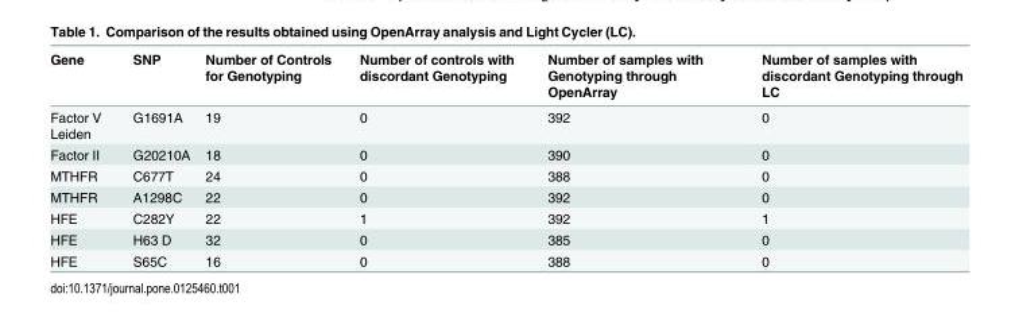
<table><thead><tr><td>Gene</td><td>SNP</td><td>Number of Controls for Genotyping</td><td>Number of controls with discordant Genotyping</td><td>Number of samples with Genotyping through OpenArray</td><td>Number of samples with discordant Genotyping through LC</td></tr></thead><tbody><tr><td>Factor V Leiden</td><td>G1691A</td><td>19</td><td>0</td><td>392</td><td>0</td></tr><tr><td>Factor II</td><td>G20210A</td><td>18</td><td>0</td><td>390</td><td>0</td></tr><tr><td>MTHFR</td><td>C677T</td><td>24</td><td>0</td><td>388</td><td>0</td></tr><tr><td>MTHFR</td><td>A1298C</td><td>22</td><td>0</td><td>392</td><td>0</td></tr><tr><td>HFE</td><td>C282Y</td><td>22</td><td>1</td><td>392</td><td>1</td></tr><tr><td>HFE</td><td>H63 D</td><td>32</td><td>0</td><td>385</td><td>0</td></tr><tr><td>HFE</td><td>S65C</td><td>16</td><td>0</td><td>388</td><td>0</td></tr></tbody></table>